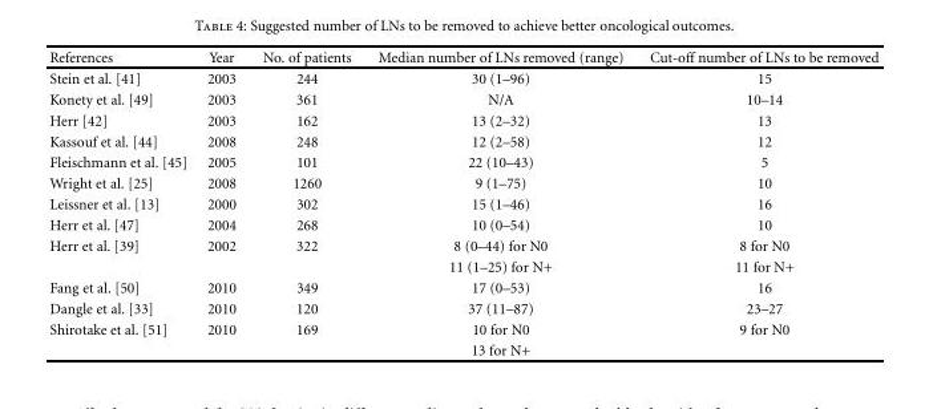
<table><thead><tr><td>References</td><td>Year</td><td>No. of patients</td><td>Median number of LNs removed (range)</td><td>Cut-off number of LNs to be removed</td></tr></thead><tbody><tr><td>Stein et al. [41]</td><td>2003</td><td>244</td><td>30 (1–96)</td><td>15</td></tr><tr><td>Konety et al. [49]</td><td>2003</td><td>361</td><td>N/A</td><td>10–14</td></tr><tr><td>Herr [42]</td><td>2003</td><td>162</td><td>13 (2–32)</td><td>13</td></tr><tr><td>Kassouf et al. [44]</td><td>2008</td><td>248</td><td>12 (2–58)</td><td>12</td></tr><tr><td>Fleischmann et al. [45]</td><td>2005</td><td>101</td><td>22 (10–43)</td><td>5</td></tr><tr><td>Wright et al. [25]</td><td>2008</td><td>1260</td><td>9 (1–75)</td><td>10</td></tr><tr><td>Leissner et al. [13]</td><td>2000</td><td>302</td><td>15 (1–46)</td><td>16</td></tr><tr><td>Herr et al. [47]</td><td>2004</td><td>268</td><td>10 (0–54)</td><td>10</td></tr><tr><td rowspan="2">Herr et al. [39]</td><td>2002</td><td>322</td><td>8 (0–44) for N0</td><td>8 for N0</td></tr><tr><td></td><td></td><td>11 (1–25) for N+</td><td>11 for N+</td></tr><tr><td>Fang et al. [50]</td><td>2010</td><td>349</td><td>17 (0–53)</td><td>16</td></tr><tr><td>Dangle et al. [33]</td><td>2010</td><td>120</td><td>37 (11–87)</td><td>23–27</td></tr><tr><td rowspan="2">Shirotake et al. [51]</td><td>2010</td><td>169</td><td>10 for N0</td><td>9 for N0</td></tr><tr><td></td><td></td><td>13 for N+</td><td></td></tr></tbody></table>